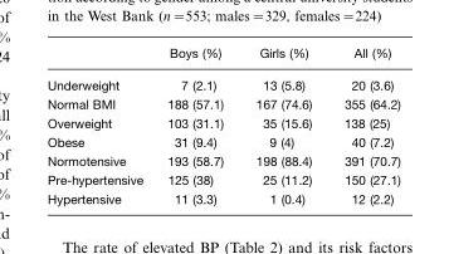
<table><thead><tr><td></td><td>Boys (%)</td><td>Girls (%)</td><td>All (%)</td></tr></thead><tbody><tr><td>Underweight</td><td>7 (2.1)</td><td>13 (5.8)</td><td>20 (3.6)</td></tr><tr><td>Normal BMI</td><td>188 (57.1)</td><td>167 (74.6)</td><td>355 (64.2)</td></tr><tr><td>Overweight</td><td>103 (31.1)</td><td>35 (15.6)</td><td>138 (25)</td></tr><tr><td>Obese</td><td>31 (9.4)</td><td>9 (4)</td><td>40 (7.2)</td></tr><tr><td>Normotensive</td><td>193 (58.7)</td><td>198 (88.4)</td><td>391 (70.7)</td></tr><tr><td>Pre-hypertensive</td><td>125 (38)</td><td>25 (11.2)</td><td>150 (27.1)</td></tr><tr><td>Hypertensive</td><td>11 (3.3)</td><td>1 (0.4)</td><td>12 (2.2)</td></tr></tbody></table>